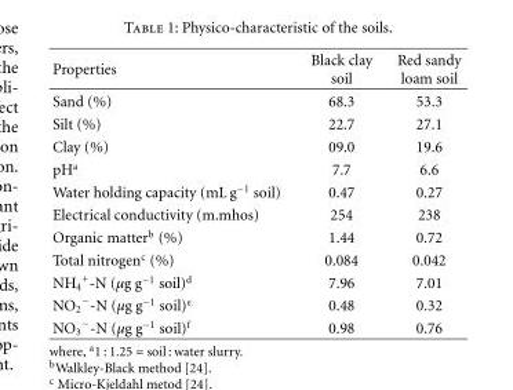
<table><thead><tr><td>Properties</td><td>Black clay soil</td><td>Red sandy loam soil</td></tr></thead><tbody><tr><td>Sand (%)</td><td>68.3</td><td>53.3</td></tr><tr><td>Silt (%)</td><td>22.7</td><td>27.1</td></tr><tr><td>Clay (%)</td><td>09.0</td><td>19.6</td></tr><tr><td>pH<sup>a</sup></td><td>7.7</td><td>6.6</td></tr><tr><td>Water holding capacity (mL g<sup>−1</sup> soil)</td><td>0.47</td><td>0.27</td></tr><tr><td>Electrical conductivity (m.mhos)</td><td>254</td><td>238</td></tr><tr><td>Organic matter<sup>b</sup> (%)</td><td>1.44</td><td>0.72</td></tr><tr><td>Total nitrogen<sup>c</sup> (%)</td><td>0.084</td><td>0.042</td></tr><tr><td>NH<sub>4</sub> <sup>+</sup>-N (µg g<sup>−1</sup> soil)<sup>d</sup></td><td>7.96</td><td>7.01</td></tr><tr><td>NO<sub>2</sub> <sup>−</sup>-N (µg g<sup>−1</sup> soil)<sup>e</sup></td><td>0.48</td><td>0.32</td></tr><tr><td>NO<sub>3</sub> <sup>−</sup>-N (µg g<sup>−1</sup> soil)<sup>f</sup></td><td>0.98</td><td>0.76</td></tr></tbody></table>